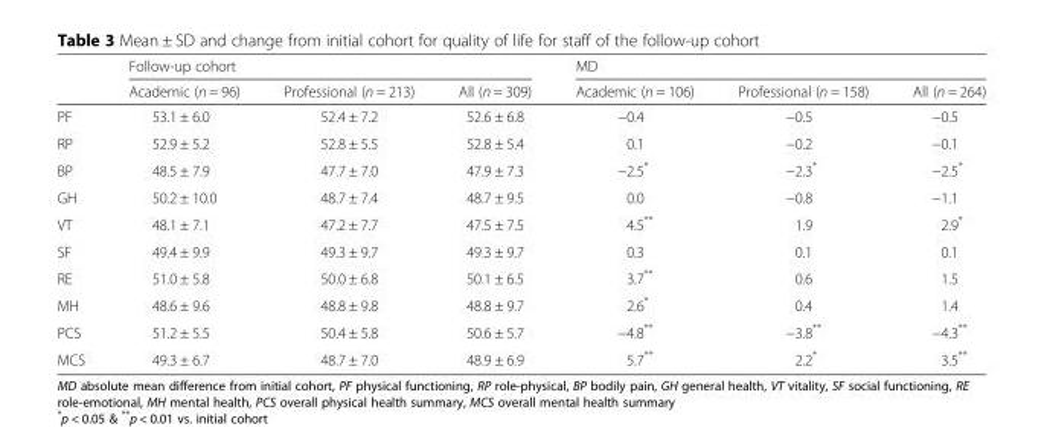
<table><thead><tr><td rowspan="2"></td><td colspan="3">Follow-up cohort</td><td colspan="3">MD</td></tr><tr><td>Academic (n = 96)</td><td>Professional (n = 213)</td><td>All (n = 309)</td><td>Academic (n = 106)</td><td>Professional (n = 158)</td><td>All (n = 264)</td></tr></thead><tbody><tr><td>PF</td><td>53.1 ± 6.0</td><td>52.4 ± 7.2</td><td>52.6 ± 6.8</td><td>−0.4</td><td>−0.5</td><td>−0.5</td></tr><tr><td>RP</td><td>52.9 ± 5.2</td><td>52.8 ± 5.5</td><td>52.8 ± 5.4</td><td>0.1</td><td>−0.2</td><td>−0.1</td></tr><tr><td>BP</td><td>48.5 ± 7.9</td><td>47.7 ± 7.0</td><td>47.9 ± 7.3</td><td>−2.5*</td><td>−2.3*</td><td>−2.5*</td></tr><tr><td>GH</td><td>50.2 ± 10.0</td><td>48.7 ± 7.4</td><td>48.7 ± 9.5</td><td>0.0</td><td>−0.8</td><td>−1.1</td></tr><tr><td>VT</td><td>48.1 ± 7.1</td><td>47.2 ± 7.7</td><td>47.5 ± 7.5</td><td>4.5**</td><td>1.9</td><td>2.9*</td></tr><tr><td>SF</td><td>49.4 ± 9.9</td><td>49.3 ± 9.7</td><td>49.3 ± 9.7</td><td>0.3</td><td>0.1</td><td>0.1</td></tr><tr><td>RE</td><td>51.0 ± 5.8</td><td>50.0 ± 6.8</td><td>50.1 ± 6.5</td><td>3.7**</td><td>0.6</td><td>1.5</td></tr><tr><td>MH</td><td>48.6 ± 9.6</td><td>48.8 ± 9.8</td><td>48.8 ± 9.7</td><td>2.6*</td><td>0.4</td><td>1.4</td></tr><tr><td>PCS</td><td>51.2 ± 5.5</td><td>50.4 ± 5.8</td><td>50.6 ± 5.7</td><td>−4.8**</td><td>−3.8**</td><td>−4.3**</td></tr><tr><td>MCS</td><td>49.3 ± 6.7</td><td>48.7 ± 7.0</td><td>48.9 ± 6.9</td><td>5.7**</td><td>2.2*</td><td>3.5**</td></tr></tbody></table>